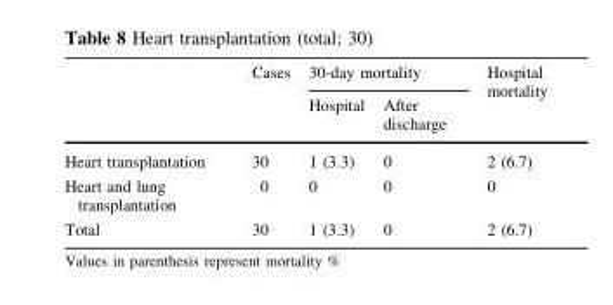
<table><thead><tr><td rowspan="2"></td><td rowspan="2">Cases</td><td colspan="2">30-day mortality</td><td rowspan="2">Hospital mortality</td></tr><tr><td>Hospital</td><td>After discharge</td></tr></thead><tbody><tr><td>Heart transplantation</td><td>30</td><td>1 (3.3)</td><td>0</td><td>2 (6.7)</td></tr><tr><td>Heart and lung transplantation</td><td>0</td><td>0</td><td>0</td><td>0</td></tr><tr><td>Total</td><td>30</td><td>1 (3.3)</td><td>0</td><td>2 (6.7)</td></tr></tbody></table>